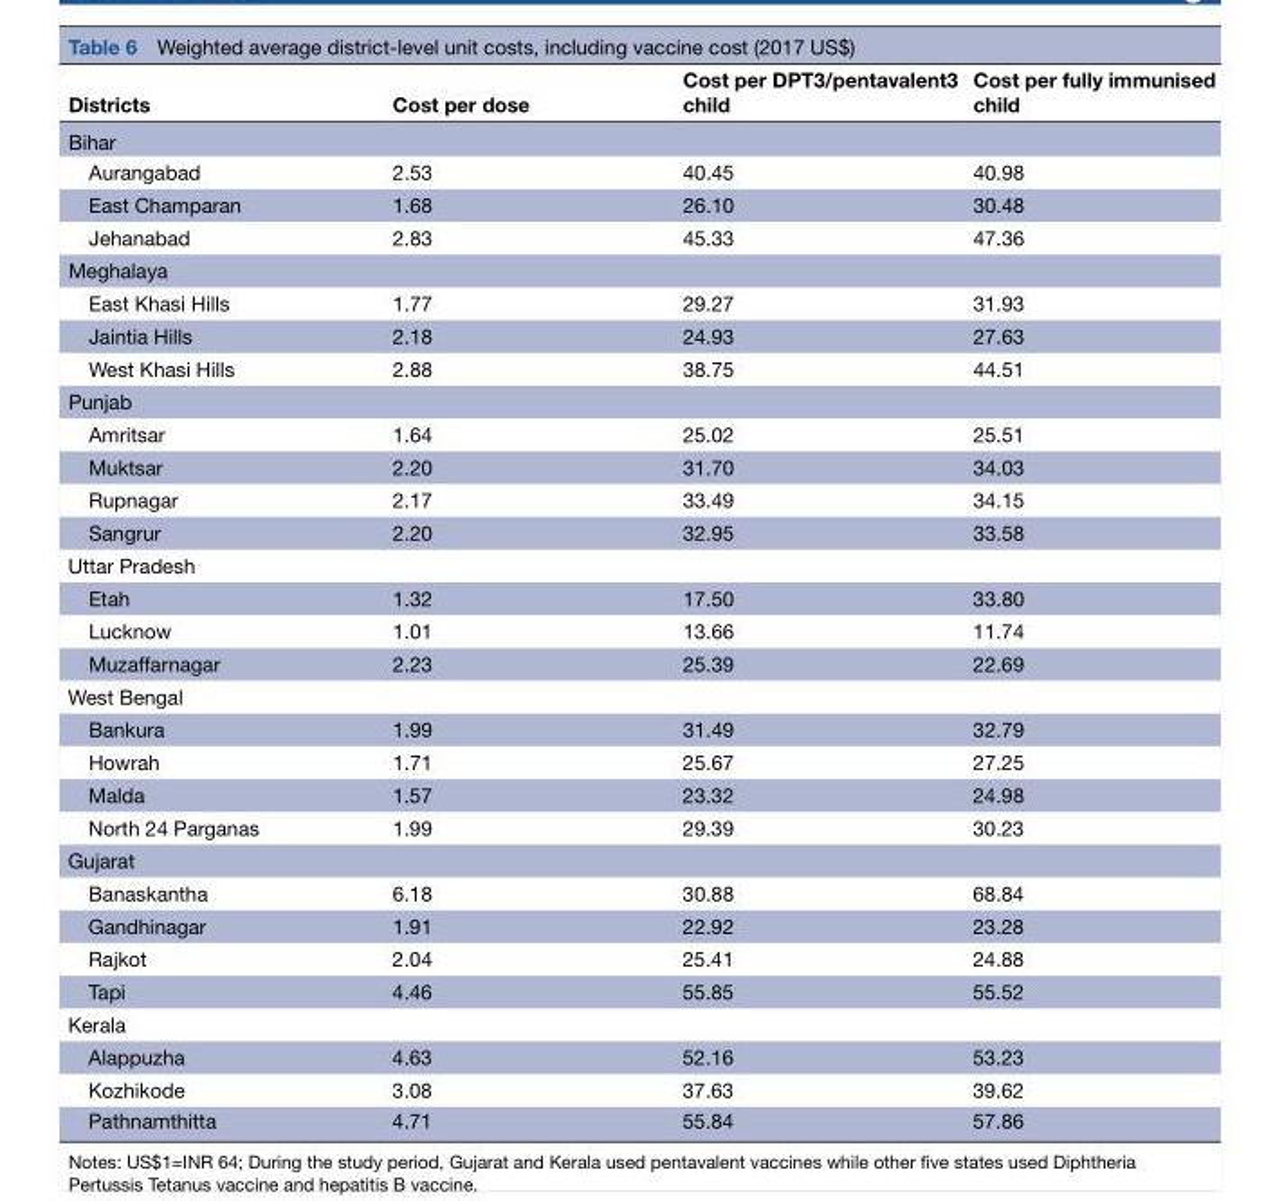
<table><thead><tr><td>Districts</td><td>Cost per dose</td><td>Cost per DPT3/pentavalent3 child</td><td>Cost per fully immunised child</td></tr></thead><tbody><tr><td colspan="4">Bihar</td></tr><tr><td>Aurangabad</td><td>2.53</td><td>40.45</td><td>40.98</td></tr><tr><td>East Champaran</td><td>1.68</td><td>26.10</td><td>30.48</td></tr><tr><td>Jehanabad</td><td>2.83</td><td>45.33</td><td>47.36</td></tr><tr><td colspan="4">Meghalaya</td></tr><tr><td>East Khasi Hills</td><td>1.77</td><td>29.27</td><td>31.93</td></tr><tr><td>Jaintia Hills</td><td>2.18</td><td>24.93</td><td>27.63</td></tr><tr><td>West Khasi Hills</td><td>2.88</td><td>38.75</td><td>44.51</td></tr><tr><td colspan="4">Punjab</td></tr><tr><td>Amritsar</td><td>1.64</td><td>25.02</td><td>25.51</td></tr><tr><td>Muktsar</td><td>2.20</td><td>31.70</td><td>34.03</td></tr><tr><td>Rupnagar</td><td>2.17</td><td>33.49</td><td>34.15</td></tr><tr><td>Sangrur</td><td>2.20</td><td>32.95</td><td>33.58</td></tr><tr><td colspan="4">Uttar Pradesh</td></tr><tr><td>Etah</td><td>1.32</td><td>17.50</td><td>33.80</td></tr><tr><td>Lucknow</td><td>1.01</td><td>13.66</td><td>11.74</td></tr><tr><td>Muzaffarnagar</td><td>2.23</td><td>25.39</td><td>22.69</td></tr><tr><td colspan="4">West Bengal</td></tr><tr><td>Bankura</td><td>1.99</td><td>31.49</td><td>32.79</td></tr><tr><td>Howrah</td><td>1.71</td><td>25.67</td><td>27.25</td></tr><tr><td>Malda</td><td>1.57</td><td>23.32</td><td>24.98</td></tr><tr><td>North 24 Parganas</td><td>1.99</td><td>29.39</td><td>30.23</td></tr><tr><td colspan="4">Gujarat</td></tr><tr><td>Banaskantha</td><td>6.18</td><td>30.88</td><td>68.84</td></tr><tr><td>Gandhinagar</td><td>1.91</td><td>22.92</td><td>23.28</td></tr><tr><td>Rajkot</td><td>2.04</td><td>25.41</td><td>24.88</td></tr><tr><td>Tapi</td><td>4.46</td><td>55.85</td><td>55.52</td></tr><tr><td colspan="4">Kerala</td></tr><tr><td>Alappuzha</td><td>4.63</td><td>52.16</td><td>53.23</td></tr><tr><td>Kozhikode</td><td>3.08</td><td>37.63</td><td>39.62</td></tr><tr><td>Pathnamthitta</td><td>4.71</td><td>55.84</td><td>57.86</td></tr></tbody></table>